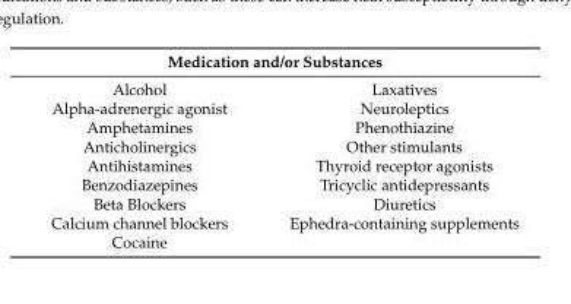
<table><thead><tr><td colspan="2">Medication and/or Substances</td></tr><tr><td>Alcohol</td><td>Laxatives</td></tr></thead><tbody><tr><td>Alpha-adrenergic agonist</td><td>Neuroleptics</td></tr><tr><td>Amphetamines</td><td>Phenothiazine</td></tr><tr><td>Anticholinergics</td><td>Other stimulants</td></tr><tr><td>Antihistamines</td><td>Thyroid receptor agonists</td></tr><tr><td>Benzodiazepines</td><td>Tricyclic antidepressants</td></tr><tr><td>Beta Blockers</td><td>Diuretics</td></tr><tr><td>Calcium channel blockers</td><td>Ephedra-containing supplements</td></tr><tr><td>Cocaine</td><td></td></tr></tbody></table>